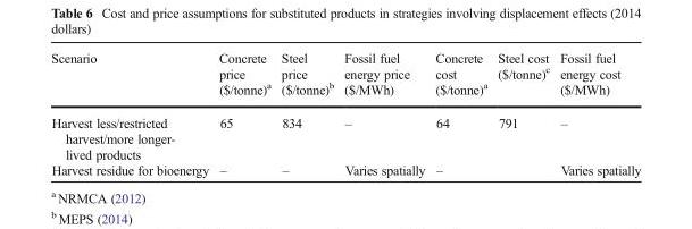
<table><thead><tr><td>Scenario</td><td>Concrete price ($/tonne)<sup>a</sup></td><td>Steel price ($/tonne)<sup>b</sup></td><td>Fossil fuel energy price ($/MWh)</td><td>Concrete cost ($/tonne)<sup>a</sup></td><td>Steel cost ($/tonne)<sup>c</sup></td><td>Fossil fuel energy cost ($/MWh)</td></tr></thead><tbody><tr><td>Harvest less/restricted harvest/more longer- lived products</td><td>65</td><td>834</td><td>–</td><td>64</td><td>791</td><td>–</td></tr><tr><td>Harvest residue for bioenergy</td><td>–</td><td>–</td><td>Varies spatially</td><td>–</td><td></td><td>Varies spatially</td></tr></tbody></table>